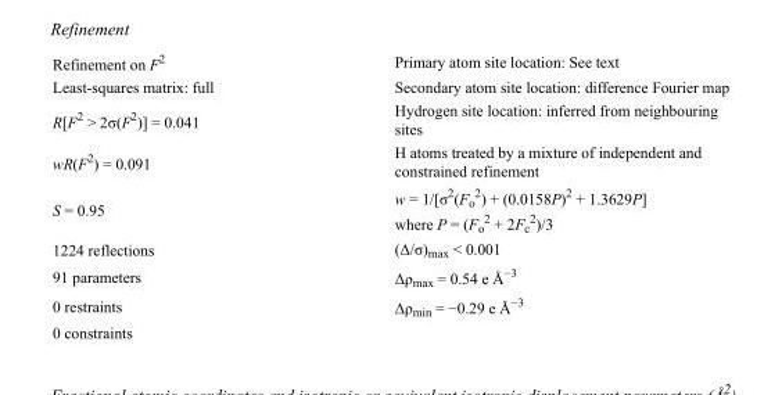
<table><tbody><tr><td>Refinement on F<sup>2</sup></td><td>Primary atom site location: See text</td></tr><tr><td>Least-squares matrix: full</td><td>Secondary atom site location: difference Fourier map</td></tr><tr><td>R[F<sup>2</sup> &gt; 2σ(F<sup>2</sup>)] = 0.041</td><td>Hydrogen site location: inferred from neighbouring sites</td></tr><tr><td>wR(F<sup>2</sup>) = 0.091</td><td>H atoms treated by a mixture of independent and constrained refinement</td></tr><tr><td>S = 0.95</td><td>w = 1/[σ<sup>2</sup>(F<sub>o</sub> <sup>2</sup>) + (0.0158P)<sup>2</sup> + 1.3629P] where P = (F<sub>o</sub> <sup>2</sup> + 2F<sub>c</sub> <sup>2</sup>)/3</td></tr><tr><td>1224 reflections</td><td>(Δ/σ)<sub>max</sub> &lt; 0.001</td></tr><tr><td>91 parameters</td><td>Δρ<sub>max</sub> = 0.54 e Å<sup>−3</sup></td></tr><tr><td>0 restraints</td><td>Δρ<sub>min</sub> = −0.29 e Å<sup>−3</sup></td></tr><tr><td>0 constraints</td><td></td></tr></tbody></table>